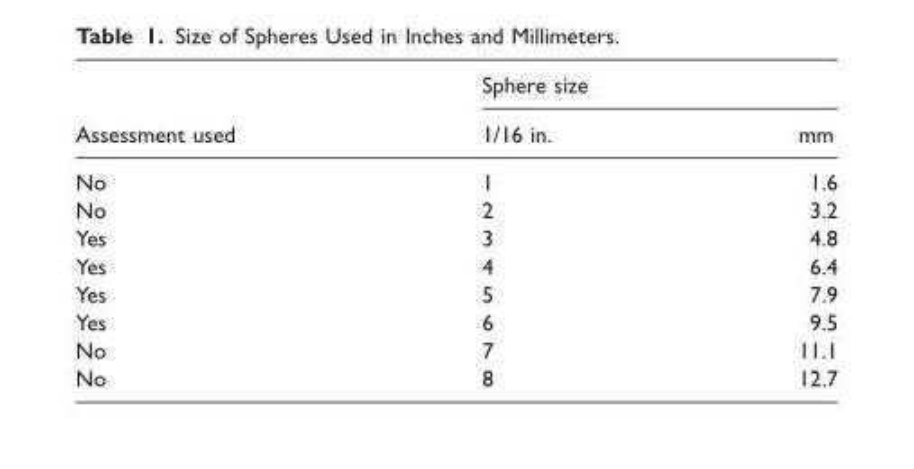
<table><thead><tr><td rowspan="2">Assessment used</td><td colspan="2">Sphere size</td></tr><tr><td>1/16 in.</td><td>mm</td></tr></thead><tbody><tr><td>No</td><td>1</td><td>1.6</td></tr><tr><td>No</td><td>2</td><td>3.2</td></tr><tr><td>Yes</td><td>3</td><td>4.8</td></tr><tr><td>Yes</td><td>4</td><td>6.4</td></tr><tr><td>Yes</td><td>5</td><td>7.9</td></tr><tr><td>Yes</td><td>6</td><td>9.5</td></tr><tr><td>No</td><td>7</td><td>11.1</td></tr><tr><td>No</td><td>8</td><td>12.7</td></tr></tbody></table>